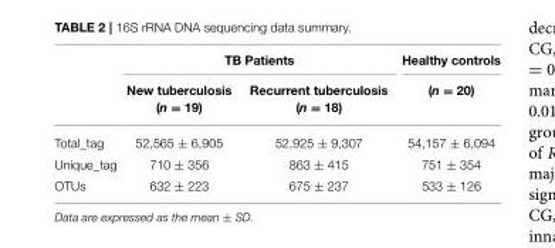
<table><thead><tr><td rowspan="2"></td><td colspan="2">TB Patients</td><td rowspan="2">Healthy controls (n = 20)</td></tr><tr><td>New tuberculosis (n = 19)</td><td>Recurrent tuberculosis (n = 18)</td></tr></thead><tbody><tr><td>Total_tag</td><td>52,565 ± 6,905</td><td>52,925 ± 9,307</td><td>54,157 ± 6,094</td></tr><tr><td>Unique_tag</td><td>710 ± 356</td><td>863 ± 415</td><td>751 ± 354</td></tr><tr><td>OTUs</td><td>632 ± 223</td><td>675 ± 237</td><td>533 ± 126</td></tr></tbody></table>